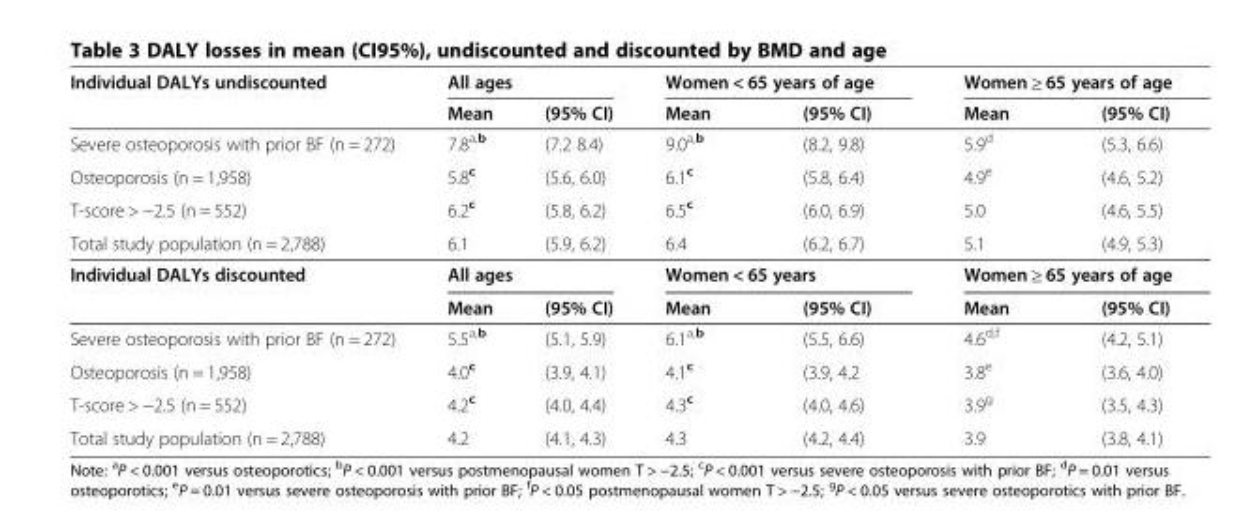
<table><thead><tr><td rowspan="2">Individual DALYs undiscounted</td><td colspan="2">All ages</td><td colspan="2">Women &lt; 65 years of age</td><td colspan="2">Women ≥ 65 years of age</td></tr><tr><td>Mean</td><td>(95% CI)</td><td>Mean</td><td>(95% CI)</td><td>Mean</td><td>(95% CI)</td></tr></thead><tbody><tr><td>Severe osteoporosis with prior BF (n = 272)</td><td>7.8<sup>a,b</sup></td><td>(7.2 8.4)</td><td>9.0<sup>a,b</sup></td><td>(8.2, 9.8)</td><td>5.9<sup>d</sup></td><td>(5.3, 6.6)</td></tr><tr><td>Osteoporosis (n = 1,958)</td><td>5.8<sup>c</sup></td><td>(5.6, 6.0)</td><td>6.1<sup>c</sup></td><td>(5.8, 6.4)</td><td>4.9<sup>e</sup></td><td>(4.6, 5.2)</td></tr><tr><td>T-score &gt; −2.5 (n = 552)</td><td>6.2<sup>c</sup></td><td>(5.8, 6.2)</td><td>6.5<sup>c</sup></td><td>(6.0, 6.9)</td><td>5.0</td><td>(4.6, 5.5)</td></tr><tr><td>Total study population (n = 2,788)</td><td>6.1</td><td>(5.9, 6.2)</td><td>6.4</td><td>(6.2, 6.7)</td><td>5.1</td><td>(4.9, 5.3)</td></tr><tr><td rowspan="2">Individual DALYs discounted</td><td colspan="2">All ages</td><td colspan="2">Women &lt; 65 years</td><td colspan="2">Women ≥ 65 years of age</td></tr><tr><td>Mean</td><td>(95% CI)</td><td>Mean</td><td>(95% CI)</td><td>Mean</td><td>(95% CI)</td></tr><tr><td>Severe osteoporosis with prior BF (n = 272)</td><td>5.5<sup>a,b</sup></td><td>(5.1, 5.9)</td><td>6.1<sup>a,b</sup></td><td>(5.5, 6.6)</td><td>4.6<sup>d,f</sup></td><td>(4.2, 5.1)</td></tr><tr><td>Osteoporosis (n = 1,958)</td><td>4.0<sup>c</sup></td><td>(3.9, 4.1)</td><td>4.1<sup>c</sup></td><td>(3.9, 4.2</td><td>3.8<sup>e</sup></td><td>(3.6, 4.0)</td></tr><tr><td>T-score &gt; −2.5 (n = 552)</td><td>4.2<sup>c</sup></td><td>(4.0, 4.4)</td><td>4.3<sup>c</sup></td><td>(4.0, 4.6)</td><td>3.9<sup>g</sup></td><td>(3.5, 4.3)</td></tr><tr><td>Total study population (n = 2,788)</td><td>4.2</td><td>(4.1, 4.3)</td><td>4.3</td><td>(4.2, 4.4)</td><td>3.9</td><td>(3.8, 4.1)</td></tr></tbody></table>